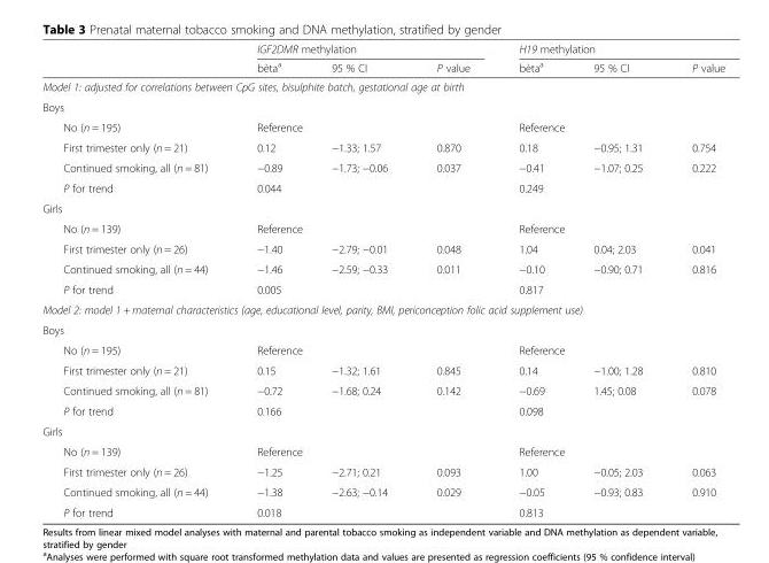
<table><thead><tr><td rowspan="2"></td><td colspan="3">IGF2DMR methylation</td><td colspan="3">H19 methylation</td></tr><tr><td>bèta<sup>a</sup></td><td>95 % CI</td><td>P value</td><td>bèta<sup>a</sup></td><td>95 % CI</td><td>P value</td></tr></thead><tbody><tr><td colspan="7">Model 1: adjusted for correlations between CpG sites, bisulphite batch, gestational age at birth</td></tr><tr><td colspan="7">Boys</td></tr><tr><td>No (n = 195)</td><td colspan="3">Reference</td><td colspan="3">Reference</td></tr><tr><td>First trimester only (n = 21)</td><td>0.12</td><td>−1.33; 1.57</td><td>0.870</td><td>0.18</td><td>−0.95; 1.31</td><td>0.754</td></tr><tr><td>Continued smoking, all (n = 81)</td><td>−0.89</td><td>−1.73; −0.06</td><td>0.037</td><td>−0.41</td><td>−1.07; 0.25</td><td>0.222</td></tr><tr><td>P for trend</td><td colspan="3">0.044</td><td colspan="3">0.249</td></tr><tr><td colspan="7">Girls</td></tr><tr><td>No (n = 139)</td><td colspan="3">Reference</td><td colspan="3">Reference</td></tr><tr><td>First trimester only (n = 26)</td><td>−1.40</td><td>−2.79; −0.01</td><td>0.048</td><td>1.04</td><td>0.04; 2.03</td><td>0.041</td></tr><tr><td>Continued smoking, all (n = 44)</td><td>−1.46</td><td>−2.59; −0.33</td><td>0.011</td><td>−0.10</td><td>−0.90; 0.71</td><td>0.816</td></tr><tr><td>P for trend</td><td colspan="3">0.005</td><td colspan="3">0.817</td></tr><tr><td colspan="7">Model 2: model 1 + maternal characteristics (age, educational level, parity, BMI, periconception folic acid supplement use)</td></tr><tr><td colspan="7">Boys</td></tr><tr><td>No (n = 195)</td><td colspan="3">Reference</td><td colspan="3">Reference</td></tr><tr><td>First trimester only (n = 21)</td><td>0.15</td><td>−1.32; 1.61</td><td>0.845</td><td>0.14</td><td>−1.00; 1.28</td><td>0.810</td></tr><tr><td>Continued smoking, all (n = 81)</td><td>−0.72</td><td>−1.68; 0.24</td><td>0.142</td><td>−0.69</td><td>1.45; 0.08</td><td>0.078</td></tr><tr><td>P for trend</td><td colspan="3">0.166</td><td colspan="3">0.098</td></tr><tr><td colspan="7">Girls</td></tr><tr><td>No (n = 139)</td><td colspan="3">Reference</td><td colspan="3">Reference</td></tr><tr><td>First trimester only (n = 26)</td><td>−1.25</td><td>−2.71; 0.21</td><td>0.093</td><td>1.00</td><td>−0.05; 2.03</td><td>0.063</td></tr><tr><td>Continued smoking, all (n = 44)</td><td>−1.38</td><td>−2.63; −0.14</td><td>0.029</td><td>−0.05</td><td>−0.93; 0.83</td><td>0.910</td></tr><tr><td>P for trend</td><td colspan="3">0.018</td><td colspan="3">0.813</td></tr></tbody></table>